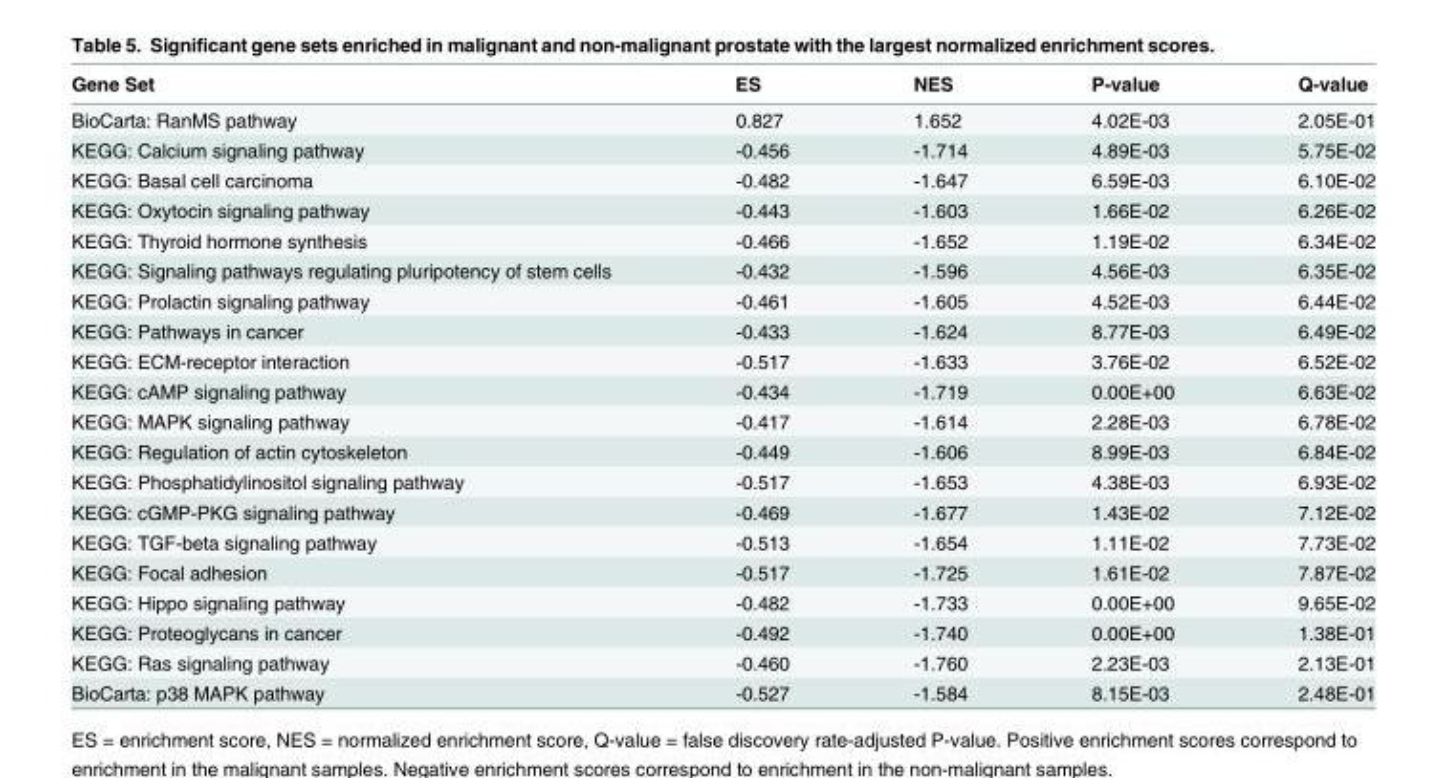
<table><thead><tr><td>Gene Set</td><td>ES</td><td>NES</td><td>P-value</td><td>Q-value</td></tr></thead><tbody><tr><td>BioCarta: RanMS pathway</td><td>0.827</td><td>1.652</td><td>4.02E-03</td><td>2.05E-01</td></tr><tr><td>KEGG: Calcium signaling pathway</td><td>-0.456</td><td>-1.714</td><td>4.89E-03</td><td>5.75E-02</td></tr><tr><td>KEGG: Basal cell carcinoma</td><td>-0.482</td><td>-1.647</td><td>6.59E-03</td><td>6.10E-02</td></tr><tr><td>KEGG: Oxytocin signaling pathway</td><td>-0.443</td><td>-1.603</td><td>1.66E-02</td><td>6.26E-02</td></tr><tr><td>KEGG: Thyroid hormone synthesis</td><td>-0.466</td><td>-1.652</td><td>1.19E-02</td><td>6.34E-02</td></tr><tr><td>KEGG: Signaling pathways regulating pluripotency of stem cells</td><td>-0.432</td><td>-1.596</td><td>4.56E-03</td><td>6.35E-02</td></tr><tr><td>KEGG: Prolactin signaling pathway</td><td>-0.461</td><td>-1.605</td><td>4.52E-03</td><td>6.44E-02</td></tr><tr><td>KEGG: Pathways in cancer</td><td>-0.433</td><td>-1.624</td><td>8.77E-03</td><td>6.49E-02</td></tr><tr><td>KEGG: ECM-receptor interaction</td><td>-0.517</td><td>-1.633</td><td>3.76E-02</td><td>6.52E-02</td></tr><tr><td>KEGG: cAMP signaling pathway</td><td>-0.434</td><td>-1.719</td><td>0.00E+00</td><td>6.63E-02</td></tr><tr><td>KEGG: MAPK signaling pathway</td><td>-0.417</td><td>-1.614</td><td>2.28E-03</td><td>6.78E-02</td></tr><tr><td>KEGG: Regulation of actin cytoskeleton</td><td>-0.449</td><td>-1.606</td><td>8.99E-03</td><td>6.84E-02</td></tr><tr><td>KEGG: Phosphatidylinositol signaling pathway</td><td>-0.517</td><td>-1.653</td><td>4.38E-03</td><td>6.93E-02</td></tr><tr><td>KEGG: cGMP-PKG signaling pathway</td><td>-0.469</td><td>-1.677</td><td>1.43E-02</td><td>7.12E-02</td></tr><tr><td>KEGG: TGF-beta signaling pathway</td><td>-0.513</td><td>-1.654</td><td>1.11E-02</td><td>7.73E-02</td></tr><tr><td>KEGG: Focal adhesion</td><td>-0.517</td><td>-1.725</td><td>1.61E-02</td><td>7.87E-02</td></tr><tr><td>KEGG: Hippo signaling pathway</td><td>-0.482</td><td>-1.733</td><td>0.00E+00</td><td>9.65E-02</td></tr><tr><td>KEGG: Proteoglycans in cancer</td><td>-0.492</td><td>-1.740</td><td>0.00E+00</td><td>1.38E-01</td></tr><tr><td>KEGG: Ras signaling pathway</td><td>-0.460</td><td>-1.760</td><td>2.23E-03</td><td>2.13E-01</td></tr><tr><td>BioCarta: p38 MAPK pathway</td><td>-0.527</td><td>-1.584</td><td>8.15E-03</td><td>2.48E-01</td></tr></tbody></table>